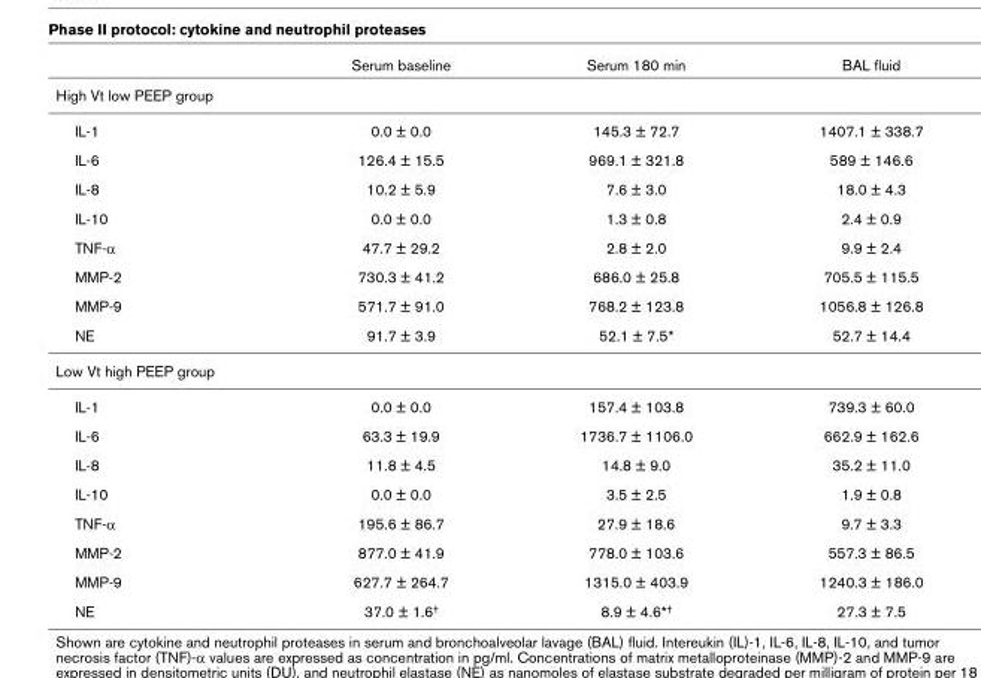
<table><thead><tr><td></td><td>Serum baseline</td><td>Serum 180 min</td><td>BAL fluid</td></tr></thead><tbody><tr><td colspan="4">High Vt low PEEP group</td></tr><tr><td>IL-1</td><td>0.0 ± 0.0</td><td>145.3 ± 72.7</td><td>1407.1 ± 338.7</td></tr><tr><td>IL-6</td><td>126.4 ± 15.5</td><td>969.1 ± 321.8</td><td>589 ± 146.6</td></tr><tr><td>IL-8</td><td>10.2 ± 5.9</td><td>7.6 ± 3.0</td><td>18.0 ± 4.3</td></tr><tr><td>IL-10</td><td>0.0 ± 0.0</td><td>1.3 ± 0.8</td><td>2.4 ± 0.9</td></tr><tr><td>TNF-α</td><td>47.7 ± 29.2</td><td>2.8 ± 2.0</td><td>9.9 ± 2.4</td></tr><tr><td>MMP-2</td><td>730.3 ± 41.2</td><td>686.0 ± 25.8</td><td>705.5 ± 115.5</td></tr><tr><td>MMP-9</td><td>571.7 ± 91.0</td><td>768.2 ± 123.8</td><td>1056.8 ± 126.8</td></tr><tr><td>NE</td><td>91.7 ± 3.9</td><td>52.1 ± 7.5*</td><td>52.7 ± 14.4</td></tr><tr><td colspan="4">Low Vt high PEEP group</td></tr><tr><td>IL-1</td><td>0.0 ± 0.0</td><td>157.4 ± 103.8</td><td>739.3 ± 60.0</td></tr><tr><td>IL-6</td><td>63.3 ± 19.9</td><td>1736.7 ± 1106.0</td><td>662.9 ± 162.6</td></tr><tr><td>IL-8</td><td>11.8 ± 4.5</td><td>14.8 ± 9.0</td><td>35.2 ± 11.0</td></tr><tr><td>IL-10</td><td>0.0 ± 0.0</td><td>3.5 ± 2.5</td><td>1.9 ± 0.8</td></tr><tr><td>TNF-α</td><td>195.6 ± 86.7</td><td>27.9 ± 18.6</td><td>9.7 ± 3.3</td></tr><tr><td>MMP-2</td><td>877.0 ± 41.9</td><td>778.0 ± 103.6</td><td>557.3 ± 86.5</td></tr><tr><td>MMP-9</td><td>627.7 ± 264.7</td><td>1315.0 ± 403.9</td><td>1240.3 ± 186.0</td></tr><tr><td>NE</td><td>37.0 ± 1.6<sup>†</sup></td><td>8.9 ± 4.6*<sup>†</sup></td><td>27.3 ± 7.5</td></tr></tbody></table>